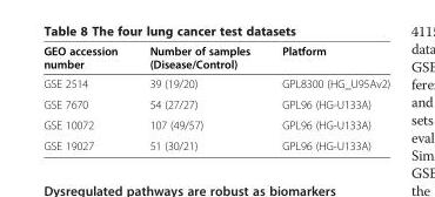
<table><thead><tr><td>GEO accession number</td><td>Number of samples (Disease/Control)</td><td>Platform</td></tr></thead><tbody><tr><td>GSE 2514</td><td>39 (19/20)</td><td>GPL8300 (HG_U95Av2)</td></tr><tr><td>GSE 7670</td><td>54 (27/27)</td><td>GPL96 (HG-U133A)</td></tr><tr><td>GSE 10072</td><td>107 (49/57)</td><td>GPL96 (HG-U133A)</td></tr><tr><td>GSE 19027</td><td>51 (30/21)</td><td>GPL96 (HG-U133A)</td></tr></tbody></table>